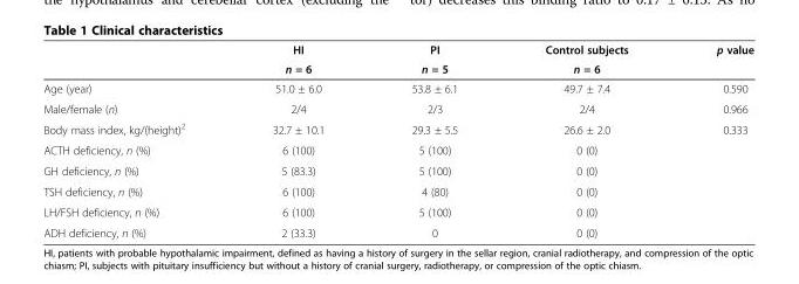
<table><thead><tr><td rowspan="2"></td><td rowspan="2">HI n = 6</td><td rowspan="2">PI n = 5</td><td rowspan="2">Control subjects n = 6</td><td rowspan="2">p value</td></tr><tr></tr></thead><tbody><tr><td>Age (year)</td><td>51.0 ± 6.0</td><td>53.8 ± 6.1</td><td>49.7 ± 7.4</td><td>0.590</td></tr><tr><td>Male/female (n)</td><td>2/4</td><td>2/3</td><td>2/4</td><td>0.966</td></tr><tr><td>Body mass index, kg/(height)<sup>2</sup></td><td>32.7 ± 10.1</td><td>29.3 ± 5.5</td><td>26.6 ± 2.0</td><td>0.333</td></tr><tr><td>ACTH deficiency, n (%)</td><td>6 (100)</td><td>5 (100)</td><td>0 (0)</td><td></td></tr><tr><td>GH deficiency, n (%)</td><td>5 (83.3)</td><td>5 (100)</td><td>0 (0)</td><td></td></tr><tr><td>TSH deficiency, n (%)</td><td>6 (100)</td><td>4 (80)</td><td>0 (0)</td><td></td></tr><tr><td>LH/FSH deficiency, n (%)</td><td>6 (100)</td><td>5 (100)</td><td>0 (0)</td><td></td></tr><tr><td>ADH deficiency, n (%)</td><td>2 (33.3)</td><td>0</td><td>0 (0)</td><td></td></tr></tbody></table>